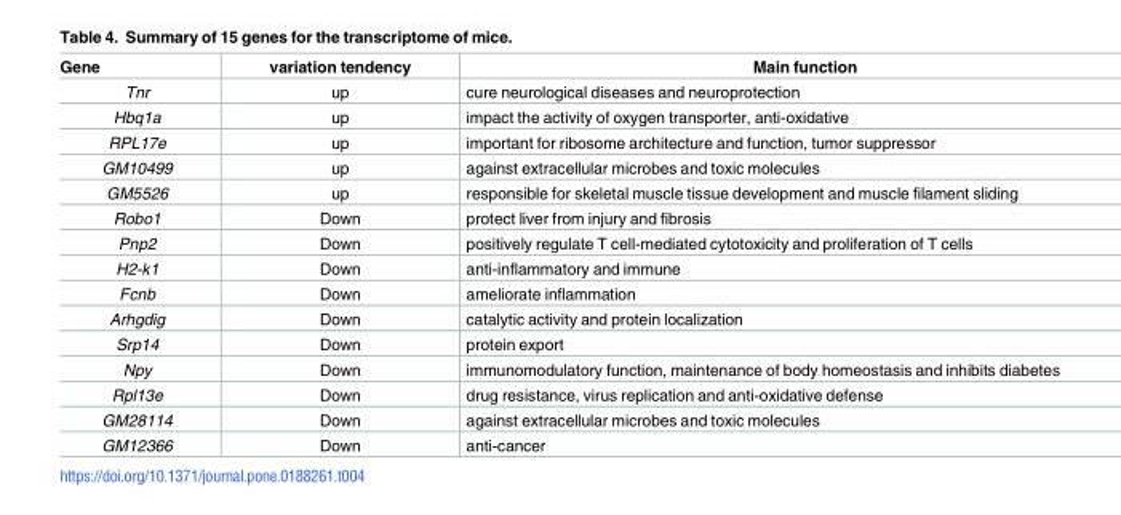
<table><thead><tr><td>Gene</td><td>variation tendency</td><td>Main function</td></tr></thead><tbody><tr><td>Tnr</td><td>up</td><td>cure neurological diseases and neuroprotection</td></tr><tr><td>Hbq1a</td><td>up</td><td>impact the activity of oxygen transporter, anti-oxidative</td></tr><tr><td>RPL17e</td><td>up</td><td>important for ribosome architecture and function, tumor suppressor</td></tr><tr><td>GM10499</td><td>up</td><td>against extracellular microbes and toxic molecules</td></tr><tr><td>GM5526</td><td>up</td><td>responsible for skeletal muscle tissue development and muscle filament sliding</td></tr><tr><td>Robo1</td><td>Down</td><td>protect liver from injury and fibrosis</td></tr><tr><td>Pnp2</td><td>Down</td><td>positively regulate T cell-mediated cytotoxicity and proliferation of T cells</td></tr><tr><td>H2-k1</td><td>Down</td><td>anti-inflammatory and immune</td></tr><tr><td>Fcnb</td><td>Down</td><td>ameliorate inflammation</td></tr><tr><td>Arhgdig</td><td>Down</td><td>catalytic activity and protein localization</td></tr><tr><td>Srp14</td><td>Down</td><td>protein export</td></tr><tr><td>Npy</td><td>Down</td><td>immunomodulatory function, maintenance of body homeostasis and inhibits diabetes</td></tr><tr><td>Rpl13e</td><td>Down</td><td>drug resistance, virus replication and anti-oxidative defense</td></tr><tr><td>GM28114</td><td>Down</td><td>against extracellular microbes and toxic molecules</td></tr><tr><td>GM12366</td><td>Down</td><td>anti-cancer</td></tr></tbody></table>